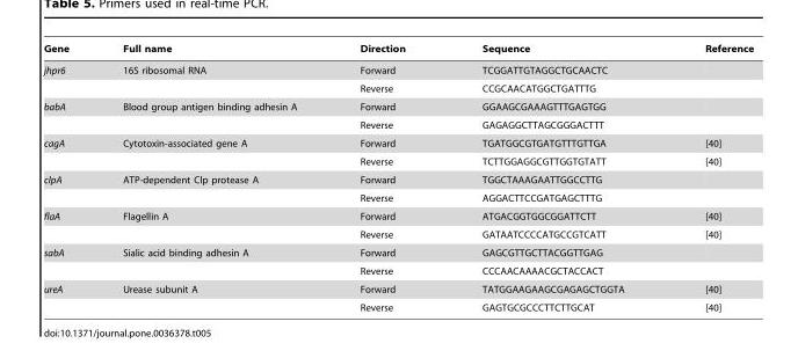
<table><thead><tr><td>Gene</td><td>Full name</td><td>Direction</td><td>Sequence</td><td>Reference</td></tr></thead><tbody><tr><td rowspan="2">jhpr6</td><td>16S ribosomal RNA</td><td>Forward</td><td>TCGGATTGTAGGCTGCAACTC</td><td></td></tr><tr><td></td><td>Reverse</td><td>CCGCAACATGGCTGATTTG</td><td></td></tr><tr><td rowspan="2">babA</td><td>Blood group antigen binding adhesin A</td><td>Forward</td><td>GGAAGCGAAAGTTTGAGTGG</td><td></td></tr><tr><td></td><td>Reverse</td><td>GAGAGGCTTAGCGGGACTTT</td><td></td></tr><tr><td rowspan="2">cagA</td><td>Cytotoxin-associated gene A</td><td>Forward</td><td>TGATGGCGTGATGTTTGTTGA</td><td>[40]</td></tr><tr><td></td><td>Reverse</td><td>TCTTGGAGGCGTTGGTGTATT</td><td>[40]</td></tr><tr><td rowspan="2">clpA</td><td>ATP-dependent Clp protease A</td><td>Forward</td><td>TGGCTAAAGAATTGGCCTTG</td><td></td></tr><tr><td></td><td>Reverse</td><td>AGGACTTCCGATGAGCTTTG</td><td></td></tr><tr><td rowspan="2">flaA</td><td>Flagellin A</td><td>Forward</td><td>ATGACGGTGGCGGATTCTT</td><td>[40]</td></tr><tr><td></td><td>Reverse</td><td>GATAATCCCCATGCCGTCATT</td><td>[40]</td></tr><tr><td rowspan="2">sabA</td><td>Sialic acid binding adhesin A</td><td>Forward</td><td>GAGCGTTGCTTACGGTTGAG</td><td></td></tr><tr><td></td><td>Reverse</td><td>CCCAACAAAACGCTACCACT</td><td></td></tr><tr><td rowspan="2">ureA</td><td>Urease subunit A</td><td>Forward</td><td>TATGGAAGAAGCGAGAGCTGGTA</td><td>[40]</td></tr><tr><td></td><td>Reverse</td><td>GAGTGCGCCCTTCTTGCAT</td><td>[40]</td></tr></tbody></table>